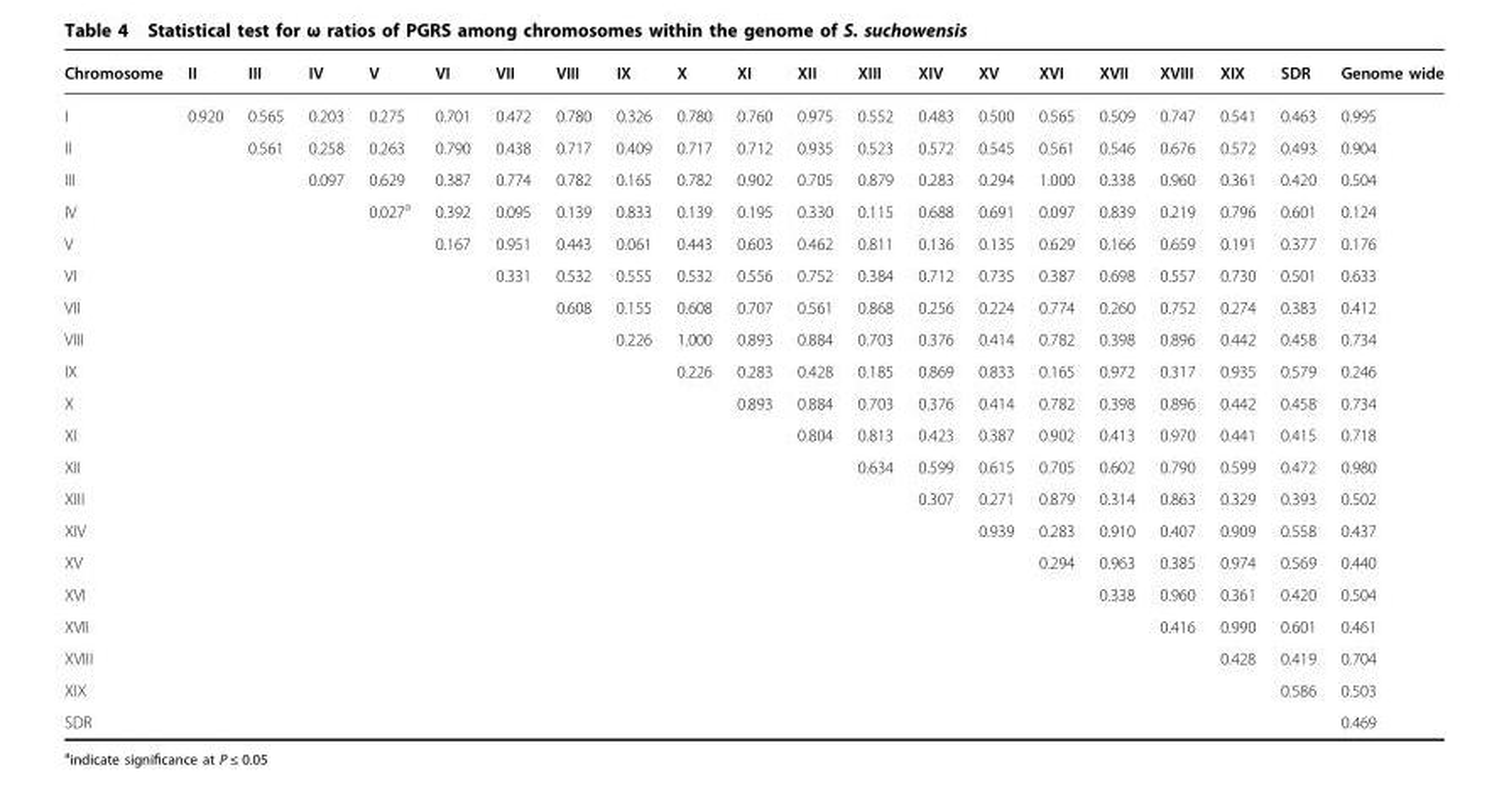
<table><thead><tr><td>Chromosome</td><td>II</td><td>III</td><td>IV</td><td>V</td><td>VI</td><td>VII</td><td>VIII</td><td>IX</td><td>X</td><td>XI</td><td>XII</td><td>XIII</td><td>XIV</td><td>XV</td><td>XVI</td><td>XVII</td><td>XVIII</td><td>XIX</td><td>SDR</td><td>Genome wide</td></tr></thead><tbody><tr><td>I</td><td>0.920</td><td>0.565</td><td>0.203</td><td>0.275</td><td>0.701</td><td>0.472</td><td>0.780</td><td>0.326</td><td>0.780</td><td>0.760</td><td>0.975</td><td>0.552</td><td>0.483</td><td>0.500</td><td>0.565</td><td>0.509</td><td>0.747</td><td>0.541</td><td>0.463</td><td>0.995</td></tr><tr><td>II</td><td></td><td>0.561</td><td>0.258</td><td>0.263</td><td>0.790</td><td>0.438</td><td>0.717</td><td>0.409</td><td>0.717</td><td>0.712</td><td>0.935</td><td>0.523</td><td>0.572</td><td>0.545</td><td>0.561</td><td>0.546</td><td>0.676</td><td>0.572</td><td>0.493</td><td>0.904</td></tr><tr><td>III</td><td></td><td></td><td>0.097</td><td>0.629</td><td>0.387</td><td>0.774</td><td>0.782</td><td>0.165</td><td>0.782</td><td>0.902</td><td>0.705</td><td>0.879</td><td>0.283</td><td>0.294</td><td>1.000</td><td>0.338</td><td>0.960</td><td>0.361</td><td>0.420</td><td>0.504</td></tr><tr><td>IV</td><td></td><td></td><td></td><td>0.027<sup>a</sup></td><td>0.392</td><td>0.095</td><td>0.139</td><td>0.833</td><td>0.139</td><td>0.195</td><td>0.330</td><td>0.115</td><td>0.688</td><td>0.691</td><td>0.097</td><td>0.839</td><td>0.219</td><td>0.796</td><td>0.601</td><td>0.124</td></tr><tr><td>V</td><td></td><td></td><td></td><td></td><td>0.167</td><td>0.951</td><td>0.443</td><td>0.061</td><td>0.443</td><td>0.603</td><td>0.462</td><td>0.811</td><td>0.136</td><td>0.135</td><td>0.629</td><td>0.166</td><td>0.659</td><td>0.191</td><td>0.377</td><td>0.176</td></tr><tr><td>VI</td><td></td><td></td><td></td><td></td><td></td><td>0.331</td><td>0.532</td><td>0.555</td><td>0.532</td><td>0.556</td><td>0.752</td><td>0.384</td><td>0.712</td><td>0.735</td><td>0.387</td><td>0.698</td><td>0.557</td><td>0.730</td><td>0.501</td><td>0.633</td></tr><tr><td>VII</td><td></td><td></td><td></td><td></td><td></td><td></td><td>0.608</td><td>0.155</td><td>0.608</td><td>0.707</td><td>0.561</td><td>0.868</td><td>0.256</td><td>0.224</td><td>0.774</td><td>0.260</td><td>0.752</td><td>0.274</td><td>0.383</td><td>0.412</td></tr><tr><td>VIII</td><td></td><td></td><td></td><td></td><td></td><td></td><td></td><td>0.226</td><td>1.000</td><td>0.893</td><td>0.884</td><td>0.703</td><td>0.376</td><td>0.414</td><td>0.782</td><td>0.398</td><td>0.896</td><td>0.442</td><td>0.458</td><td>0.734</td></tr><tr><td>IX</td><td></td><td></td><td></td><td></td><td></td><td></td><td></td><td></td><td>0.226</td><td>0.283</td><td>0.428</td><td>0.185</td><td>0.869</td><td>0.833</td><td>0.165</td><td>0.972</td><td>0.317</td><td>0.935</td><td>0.579</td><td>0.246</td></tr><tr><td>X</td><td></td><td></td><td></td><td></td><td></td><td></td><td></td><td></td><td></td><td>0.893</td><td>0.884</td><td>0.703</td><td>0.376</td><td>0.414</td><td>0.782</td><td>0.398</td><td>0.896</td><td>0.442</td><td>0.458</td><td>0.734</td></tr><tr><td>XI</td><td></td><td></td><td></td><td></td><td></td><td></td><td></td><td></td><td></td><td></td><td>0.804</td><td>0.813</td><td>0.423</td><td>0.387</td><td>0.902</td><td>0.413</td><td>0.970</td><td>0.441</td><td>0.415</td><td>0.718</td></tr><tr><td>XII</td><td></td><td></td><td></td><td></td><td></td><td></td><td></td><td></td><td></td><td></td><td></td><td>0.634</td><td>0.599</td><td>0.615</td><td>0.705</td><td>0.602</td><td>0.790</td><td>0.599</td><td>0.472</td><td>0.980</td></tr><tr><td>XIII</td><td></td><td></td><td></td><td></td><td></td><td></td><td></td><td></td><td></td><td></td><td></td><td></td><td>0.307</td><td>0.271</td><td>0.879</td><td>0.314</td><td>0.863</td><td>0.329</td><td>0.393</td><td>0.502</td></tr><tr><td>XIV</td><td></td><td></td><td></td><td></td><td></td><td></td><td></td><td></td><td></td><td></td><td></td><td></td><td></td><td>0.939</td><td>0.283</td><td>0.910</td><td>0.407</td><td>0.909</td><td>0.558</td><td>0.437</td></tr><tr><td>XV</td><td></td><td></td><td></td><td></td><td></td><td></td><td></td><td></td><td></td><td></td><td></td><td></td><td></td><td></td><td>0.294</td><td>0.963</td><td>0.385</td><td>0.974</td><td>0.569</td><td>0.440</td></tr><tr><td>XVI</td><td></td><td></td><td></td><td></td><td></td><td></td><td></td><td></td><td></td><td></td><td></td><td></td><td></td><td></td><td></td><td>0.338</td><td>0.960</td><td>0.361</td><td>0.420</td><td>0.504</td></tr><tr><td>XVII</td><td></td><td></td><td></td><td></td><td></td><td></td><td></td><td></td><td></td><td></td><td></td><td></td><td></td><td></td><td></td><td></td><td>0.416</td><td>0.990</td><td>0.601</td><td>0.461</td></tr><tr><td>XVIII</td><td></td><td></td><td></td><td></td><td></td><td></td><td></td><td></td><td></td><td></td><td></td><td></td><td></td><td></td><td></td><td></td><td></td><td>0.428</td><td>0.419</td><td>0.704</td></tr><tr><td>XIX</td><td></td><td></td><td></td><td></td><td></td><td></td><td></td><td></td><td></td><td></td><td></td><td></td><td></td><td></td><td></td><td></td><td></td><td></td><td>0.586</td><td>0.503</td></tr><tr><td>SDR</td><td></td><td></td><td></td><td></td><td></td><td></td><td></td><td></td><td></td><td></td><td></td><td></td><td></td><td></td><td></td><td></td><td></td><td></td><td></td><td>0.469</td></tr></tbody></table>